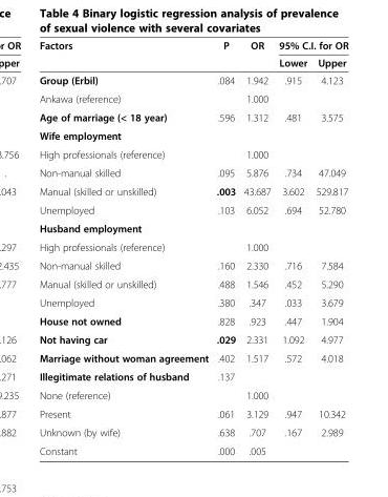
<table><thead><tr><td rowspan="2">Factors</td><td rowspan="2">P</td><td rowspan="2">OR</td><td colspan="2">95% C.I. for OR</td></tr><tr><td>Lower</td><td>Upper</td></tr></thead><tbody><tr><td>Group (Erbil)</td><td>.084</td><td>1.942</td><td>.915</td><td>4.123</td></tr><tr><td>Ankawa (reference)</td><td></td><td>1.000</td><td></td><td></td></tr><tr><td>Age of marriage (&lt; 18 year)</td><td>.596</td><td>1.312</td><td>.481</td><td>3.575</td></tr><tr><td colspan="5">Wife employment</td></tr><tr><td>High professionals (reference)</td><td></td><td>1.000</td><td></td><td></td></tr><tr><td>Non-manual skilled</td><td>.095</td><td>5.876</td><td>.734</td><td>47.049</td></tr><tr><td>Manual (skilled or unskilled)</td><td>.003</td><td>43.687</td><td>3.602</td><td>529.817</td></tr><tr><td>Unemployed</td><td>.103</td><td>6.052</td><td>.694</td><td>52.780</td></tr><tr><td colspan="5">Husband employment</td></tr><tr><td>High professionals (reference)</td><td></td><td>1.000</td><td></td><td></td></tr><tr><td>Non-manual skilled</td><td>.160</td><td>2.330</td><td>.716</td><td>7.584</td></tr><tr><td>Manual (skilled or unskilled)</td><td>.488</td><td>1.546</td><td>.452</td><td>5.290</td></tr><tr><td>Unemployed</td><td>.380</td><td>.347</td><td>.033</td><td>3.679</td></tr><tr><td>House not owned</td><td>.828</td><td>.923</td><td>.447</td><td>1.904</td></tr><tr><td>Not having car</td><td>.029</td><td>2.331</td><td>1.092</td><td>4.977</td></tr><tr><td>Marriage without woman agreement</td><td>.402</td><td>1.517</td><td>.572</td><td>4.018</td></tr><tr><td>Illegitimate relations of husband</td><td>.137</td><td></td><td></td><td></td></tr><tr><td>None (reference)</td><td></td><td>1.000</td><td></td><td></td></tr><tr><td>Present</td><td>.061</td><td>3.129</td><td>.947</td><td>10.342</td></tr><tr><td>Unknown (by wife)</td><td>.638</td><td>.707</td><td>.167</td><td>2.989</td></tr><tr><td>Constant</td><td>.000</td><td>.005</td><td></td><td></td></tr></tbody></table>